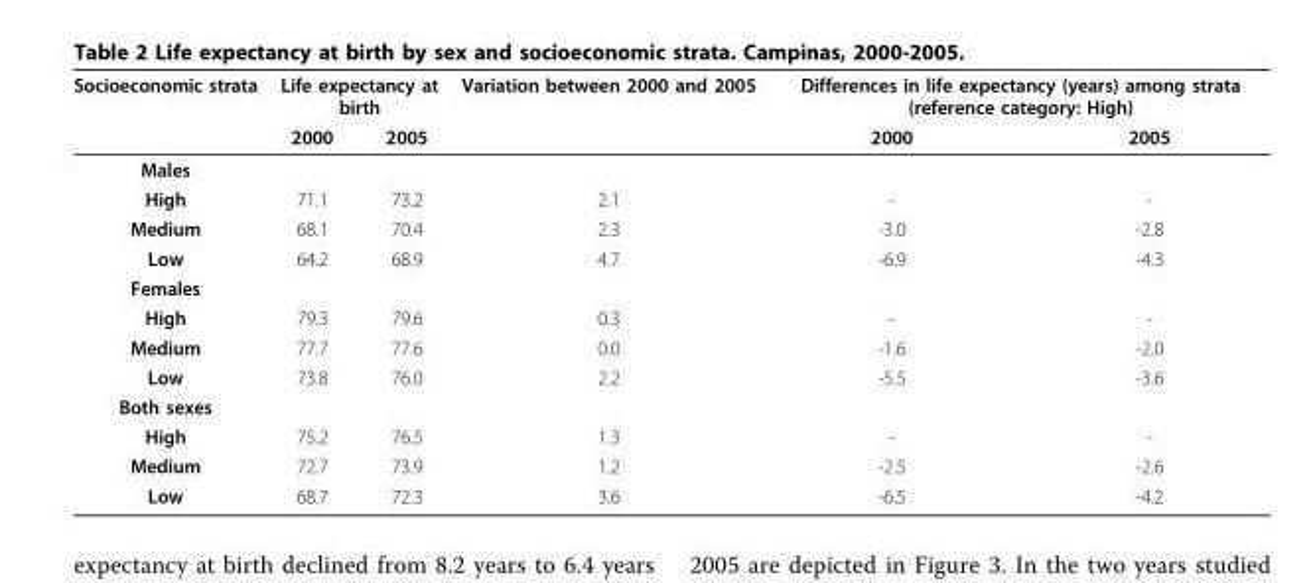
<table><thead><tr><td rowspan="2">Socioeconomic strata</td><td colspan="2">Life expectancy at birth</td><td rowspan="2">Variation between 2000 and 2005</td><td colspan="2">Differences in life expectancy (years) among strata (reference category: High)</td></tr><tr><td>2000</td><td>2005</td><td>2000</td><td>2005</td></tr></thead><tbody><tr><td colspan="6">Males</td></tr><tr><td>High</td><td>71.1</td><td>73.2</td><td>2.1</td><td>-</td><td>-</td></tr><tr><td>Medium</td><td>68.1</td><td>70.4</td><td>2.3</td><td>-3.0</td><td>-2.8</td></tr><tr><td>Low</td><td>64.2</td><td>68.9</td><td>4.7</td><td>-6.9</td><td>-4.3</td></tr><tr><td colspan="6">Females</td></tr><tr><td>High</td><td>79.3</td><td>79.6</td><td>0.3</td><td>-</td><td>-</td></tr><tr><td>Medium</td><td>77.7</td><td>77.6</td><td>0.0</td><td>-1.6</td><td>-2.0</td></tr><tr><td>Low</td><td>73.8</td><td>76.0</td><td>2.2</td><td>-5.5</td><td>-3.6</td></tr><tr><td colspan="6">Both sexes</td></tr><tr><td>High</td><td>75.2</td><td>76.5</td><td>1.3</td><td>-</td><td>-</td></tr><tr><td>Medium</td><td>72.7</td><td>73.9</td><td>1.2</td><td>-2.5</td><td>-2.6</td></tr><tr><td>Low</td><td>68.7</td><td>72.3</td><td>3.6</td><td>-6.5</td><td>-4.2</td></tr></tbody></table>